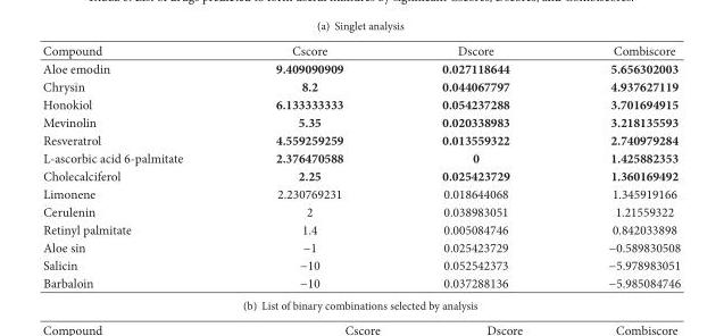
<table><thead><tr><td>Compound</td><td>Cscore</td><td>Dscore</td><td>Combiscore</td></tr></thead><tbody><tr><td>Aloe emodin</td><td>9.409090909</td><td>0.027118644</td><td>5.656302003</td></tr><tr><td>Chrysin</td><td>8.2</td><td>0.044067797</td><td>4.937627119</td></tr><tr><td>Honokiol</td><td>6.133333333</td><td>0.054237288</td><td>3.701694915</td></tr><tr><td>Mevinolin</td><td>5.35</td><td>0.020338983</td><td>3.218135593</td></tr><tr><td>Resveratrol</td><td>4.559259259</td><td>0.013559322</td><td>2.740979284</td></tr><tr><td>L-ascorbic acid 6-palmitate</td><td>2.376470588</td><td>0</td><td>1.425882353</td></tr><tr><td>Cholecalciferol</td><td>2.25</td><td>0.025423729</td><td>1.360169492</td></tr><tr><td>Limonene</td><td>2.230769231</td><td>0.018644068</td><td>1.345919166</td></tr><tr><td>Cerulenin</td><td>2</td><td>0.038983051</td><td>1.21559322</td></tr><tr><td>Retinyl palmitate</td><td>1.4</td><td>0.005084746</td><td>0.842033898</td></tr><tr><td>Aloe sin</td><td>−1</td><td>0.025423729</td><td>−0.589830508</td></tr><tr><td>Salicin</td><td>−10</td><td>0.052542373</td><td>−5.978983051</td></tr><tr><td>Barbaloin</td><td>−10</td><td>0.037288136</td><td>−5.985084746</td></tr></tbody></table>